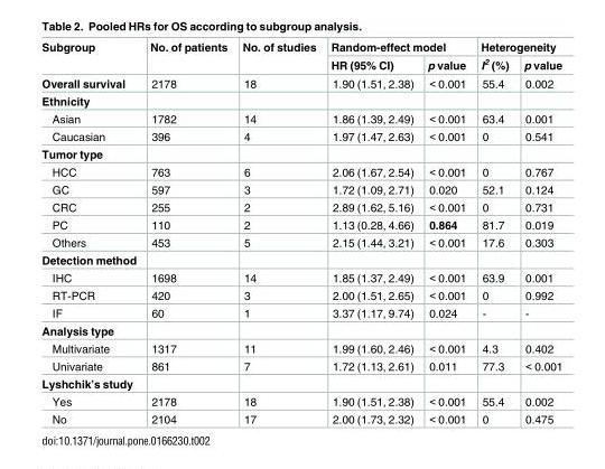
<table><thead><tr><td rowspan="2">Subgroup</td><td rowspan="2">No. of patients</td><td rowspan="2">No. of studies</td><td colspan="2">Random-effect model</td><td colspan="2">Heterogeneity</td></tr><tr><td>HR (95% CI)</td><td>p value</td><td>I<sup>2</sup> (%)</td><td>p value</td></tr></thead><tbody><tr><td>Overall survival</td><td>2178</td><td>18</td><td>1.90 (1.51, 2.38)</td><td>&lt; 0.001</td><td>55.4</td><td>0.002</td></tr><tr><td colspan="7">Ethnicity</td></tr><tr><td>Asian</td><td>1782</td><td>14</td><td>1.86 (1.39, 2.49)</td><td>&lt; 0.001</td><td>63.4</td><td>0.001</td></tr><tr><td>Caucasian</td><td>396</td><td>4</td><td>1.97 (1.47, 2.63)</td><td>&lt; 0.001</td><td>0</td><td>0.541</td></tr><tr><td colspan="7">Tumor type</td></tr><tr><td>HCC</td><td>763</td><td>6</td><td>2.06 (1.67, 2.54)</td><td>&lt; 0.001</td><td>0</td><td>0.767</td></tr><tr><td>GC</td><td>597</td><td>3</td><td>1.72 (1.09, 2.71)</td><td>0.020</td><td>52.1</td><td>0.124</td></tr><tr><td>CRC</td><td>255</td><td>2</td><td>2.89 (1.62, 5.16)</td><td>&lt; 0.001</td><td>0</td><td>0.731</td></tr><tr><td>PC</td><td>110</td><td>2</td><td>1.13 (0.28, 4.66)</td><td>0.864</td><td>81.7</td><td>0.019</td></tr><tr><td>Others</td><td>453</td><td>5</td><td>2.15 (1.44, 3.21)</td><td>&lt; 0.001</td><td>17.6</td><td>0.303</td></tr><tr><td colspan="7">Detection method</td></tr><tr><td>IHC</td><td>1698</td><td>14</td><td>1.85 (1.37, 2.49)</td><td>&lt; 0.001</td><td>63.9</td><td>0.001</td></tr><tr><td>RT-PCR</td><td>420</td><td>3</td><td>2.00 (1.51, 2.65)</td><td>&lt; 0.001</td><td>0</td><td>0.992</td></tr><tr><td>IF</td><td>60</td><td>1</td><td>3.37 (1.17, 9.74)</td><td>0.024</td><td>-</td><td>-</td></tr><tr><td colspan="7">Analysis type</td></tr><tr><td>Multivariate</td><td>1317</td><td>11</td><td>1.99 (1.60, 2.46)</td><td>&lt; 0.001</td><td>4.3</td><td>0.402</td></tr><tr><td>Univariate</td><td>861</td><td>7</td><td>1.72 (1.13, 2.61)</td><td>0.011</td><td>77.3</td><td>&lt; 0.001</td></tr><tr><td colspan="7">Lyshchik’s study</td></tr><tr><td>Yes</td><td>2178</td><td>18</td><td>1.90 (1.51, 2.38)</td><td>&lt; 0.001</td><td>55.4</td><td>0.002</td></tr><tr><td>No</td><td>2104</td><td>17</td><td>2.00 (1.73, 2.32)</td><td>&lt; 0.001</td><td>0</td><td>0.475</td></tr></tbody></table>